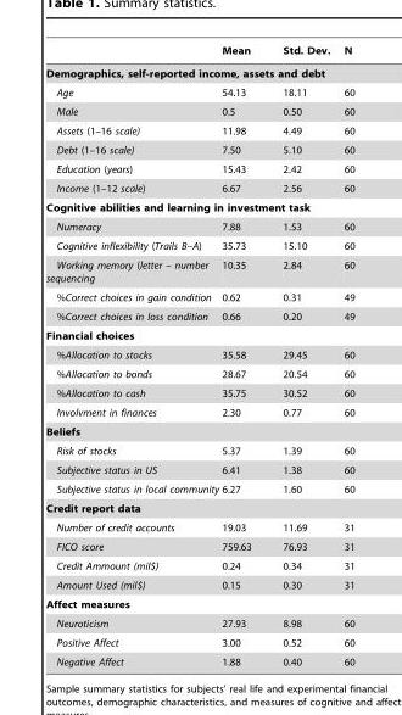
<table><thead><tr><td></td><td>Mean</td><td>Std. Dev.</td><td>N</td></tr></thead><tbody><tr><td colspan="4">Demographics, self-reported income, assets and debt</td></tr><tr><td>Age</td><td>54.13</td><td>18.11</td><td>60</td></tr><tr><td>Male</td><td>0.5</td><td>0.50</td><td>60</td></tr><tr><td>Assets (1–16 scale)</td><td>11.98</td><td>4.49</td><td>60</td></tr><tr><td>Debt (1–16 scale)</td><td>7.50</td><td>5.10</td><td>60</td></tr><tr><td>Education (years)</td><td>15.43</td><td>2.42</td><td>60</td></tr><tr><td>Income (1–12 scale)</td><td>6.67</td><td>2.56</td><td>60</td></tr><tr><td colspan="4">Cognitive abilities and learning in investment task</td></tr><tr><td>Numeracy</td><td>7.88</td><td>1.53</td><td>60</td></tr><tr><td>Cognitive inflexibility (Trails B–A)</td><td>35.73</td><td>15.10</td><td>60</td></tr><tr><td>Working memory (letter – number sequencing</td><td>10.35</td><td>2.84</td><td>60</td></tr><tr><td>%Correct choices in gain condition</td><td>0.62</td><td>0.31</td><td>49</td></tr><tr><td>%Correct choices in loss condition</td><td>0.66</td><td>0.20</td><td>49</td></tr><tr><td colspan="4">Financial choices</td></tr><tr><td>%Allocation to stocks</td><td>35.58</td><td>29.45</td><td>60</td></tr><tr><td>%Allocation to bonds</td><td>28.67</td><td>20.54</td><td>60</td></tr><tr><td>%Allocation to cash</td><td>35.75</td><td>30.52</td><td>60</td></tr><tr><td>Involvment in finances</td><td>2.30</td><td>0.77</td><td>60</td></tr><tr><td colspan="4">Beliefs</td></tr><tr><td>Risk of stocks</td><td>5.37</td><td>1.39</td><td>60</td></tr><tr><td>Subjective status in US</td><td>6.41</td><td>1.38</td><td>60</td></tr><tr><td>Subjective status in local community</td><td>6.27</td><td>1.60</td><td>60</td></tr><tr><td colspan="4">Credit report data</td></tr><tr><td>Number of credit accounts</td><td>19.03</td><td>11.69</td><td>31</td></tr><tr><td>FICO score</td><td>759.63</td><td>76.93</td><td>31</td></tr><tr><td>Credit Ammount (mil$)</td><td>0.24</td><td>0.34</td><td>31</td></tr><tr><td>Amount Used (mil$)</td><td>0.15</td><td>0.30</td><td>31</td></tr><tr><td colspan="4">Affect measures</td></tr><tr><td>Neuroticism</td><td>27.93</td><td>8.98</td><td>60</td></tr><tr><td>Positive Affect</td><td>3.00</td><td>0.52</td><td>60</td></tr><tr><td>Negative Affect</td><td>1.88</td><td>0.40</td><td>60</td></tr></tbody></table>